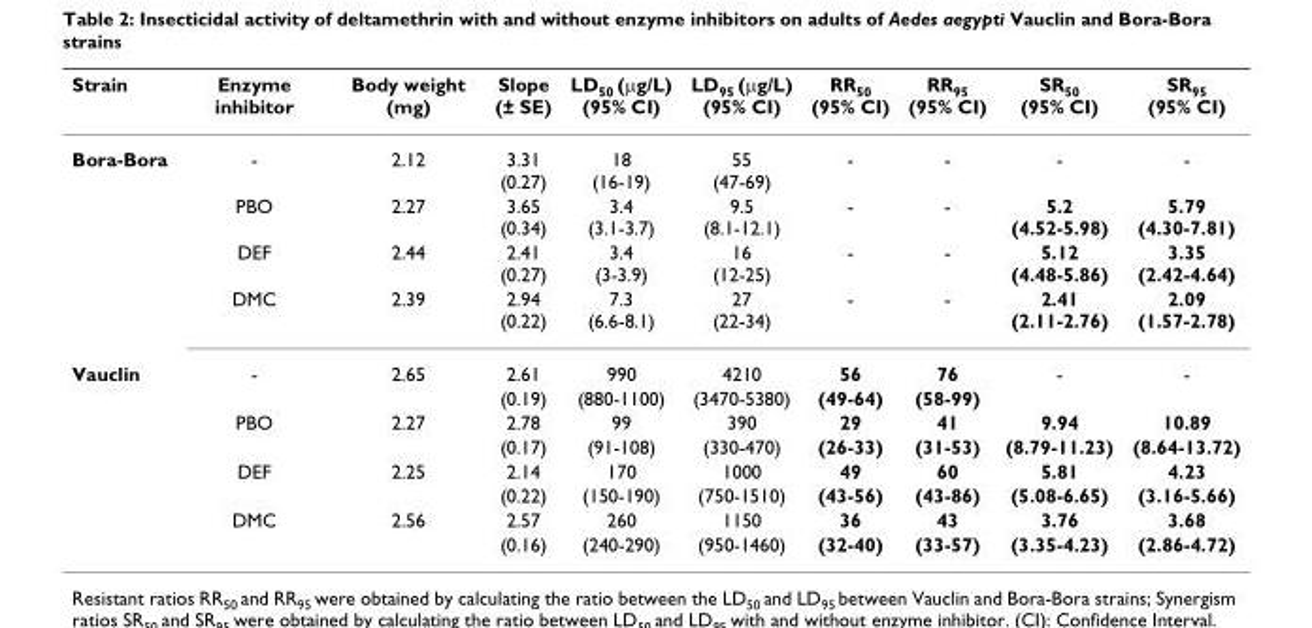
<table><thead><tr><td>Strain</td><td>Enzyme inhibitor</td><td>Body weight (mg)</td><td>Slope (± SE)</td><td>LD<sub>50</sub> (μg/L) (95% CI)</td><td>LD<sub>95</sub> (μg/L) (95% CI)</td><td>RR<sub>50</sub> (95% CI)</td><td>RR<sub>95</sub> (95% CI)</td><td>SR<sub>50</sub> (95% CI)</td><td>SR<sub>95</sub> (95% CI)</td></tr></thead><tbody><tr><td rowspan="4">Bora-Bora</td><td>-</td><td>2.12</td><td>3.31 (0.27)</td><td>18 (16-19)</td><td>55 (47-69)</td><td>-</td><td>-</td><td>-</td><td>-</td></tr><tr><td>PBO</td><td>2.27</td><td>3.65 (0.34)</td><td>3.4 (3.1-3.7)</td><td>9.5 (8.1-12.1)</td><td>-</td><td>-</td><td>5.2 (4.52-5.98)</td><td>5.79 (4.30-7.81)</td></tr><tr><td>DEF</td><td>2.44</td><td>2.41 (0.27)</td><td>3.4 (3-3.9)</td><td>16 (12-25)</td><td>-</td><td>-</td><td>5.12 (4.48-5.86)</td><td>3.35 (2.42-4.64)</td></tr><tr><td>DMC</td><td>2.39</td><td>2.94 (0.22)</td><td>7.3 (6.6-8.1)</td><td>27 (22-34)</td><td>-</td><td>-</td><td>2.41 (2.11-2.76)</td><td>2.09 (1.57-2.78)</td></tr><tr><td rowspan="8">Vauclin</td><td>-</td><td>2.65</td><td>2.61</td><td>990</td><td>4210</td><td>56</td><td>76</td><td>-</td><td>-</td></tr><tr><td></td><td></td><td>(0.19)</td><td>(880-1100)</td><td>(3470-5380)</td><td>(49-64)</td><td>(58-99)</td><td></td><td></td></tr><tr><td>PBO</td><td>2.27</td><td>2.78</td><td>99</td><td>390</td><td>29</td><td>41</td><td>9.94</td><td>10.89</td></tr><tr><td></td><td></td><td>(0.17)</td><td>(91-108)</td><td>(330-470)</td><td>(26-33)</td><td>(31-53)</td><td>(8.79-11.23)</td><td>(8.64-13.72)</td></tr><tr><td>DEF</td><td>2.25</td><td>2.14</td><td>170</td><td>1000</td><td>49</td><td>60</td><td>5.81</td><td>4.23</td></tr><tr><td></td><td></td><td>(0.22)</td><td>(150-190)</td><td>(750-1510)</td><td>(43-56)</td><td>(43-86)</td><td>(5.08-6.65)</td><td>(3.16-5.66)</td></tr><tr><td>DMC</td><td>2.56</td><td>2.57</td><td>260</td><td>1150</td><td>36</td><td>43</td><td>3.76</td><td>3.68</td></tr><tr><td></td><td></td><td>(0.16)</td><td>(240-290)</td><td>(950-1460)</td><td>(32-40)</td><td>(33-57)</td><td>(3.35-4.23)</td><td>(2.86-4.72)</td></tr></tbody></table>